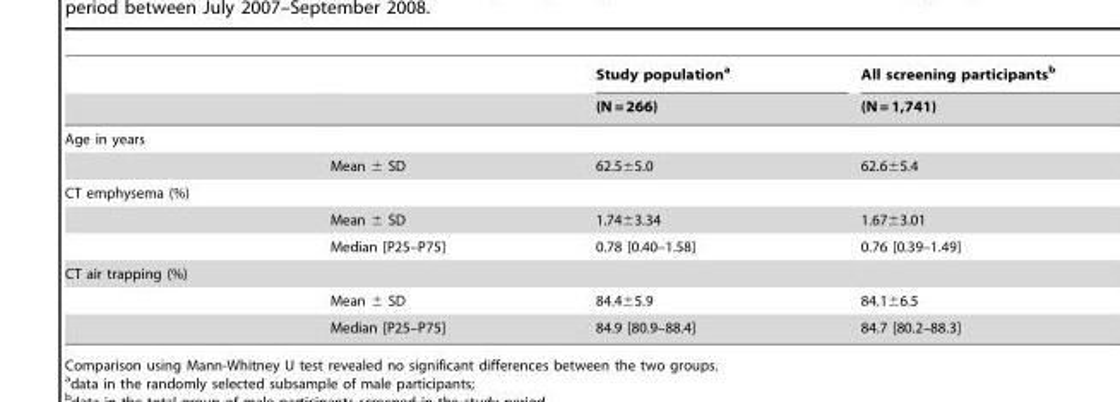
<table><thead><tr><td rowspan="2"></td><td rowspan="2"></td><td rowspan="2">Study population<sup>a</sup> (N = 266)</td><td rowspan="2">All screening participants<sup>b</sup> (N = 1,741)</td></tr><tr></tr></thead><tbody><tr><td colspan="4">Age in years</td></tr><tr><td></td><td>Mean ± SD</td><td>62.5±5.0</td><td>62.6±5.4</td></tr><tr><td colspan="4">CT emphysema (%)</td></tr><tr><td></td><td>Mean ± SD</td><td>1.74±3.34</td><td>1.67±3.01</td></tr><tr><td></td><td>Median [P25–P75]</td><td>0.78 [0.40–1.58]</td><td>0.76 [0.39–1.49]</td></tr><tr><td colspan="4">CT air trapping (%)</td></tr><tr><td></td><td>Mean ± SD</td><td>84.4±5.9</td><td>84.1±6.5</td></tr><tr><td></td><td>Median [P25–P75]</td><td>84.9 [80.9–88.4]</td><td>84.7 [80.2–88.3]</td></tr></tbody></table>